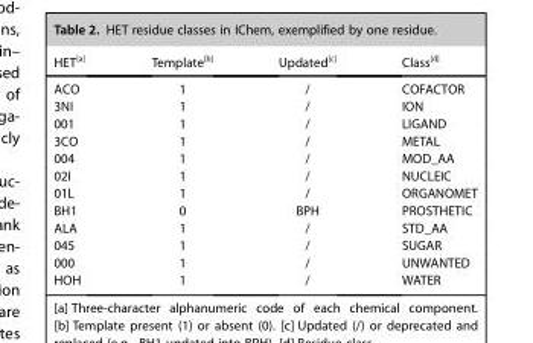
<table><thead><tr><td>HET<sup>[a]</sup></td><td>Template<sup>[b]</sup></td><td>Updated<sup>[c]</sup></td><td>Class<sup>[d]</sup></td></tr></thead><tbody><tr><td>ACO</td><td>1</td><td>/</td><td>COFACTOR</td></tr><tr><td>3NI</td><td>1</td><td>/</td><td>ION</td></tr><tr><td>001</td><td>1</td><td>/</td><td>LIGAND</td></tr><tr><td>3CO</td><td>1</td><td>/</td><td>METAL</td></tr><tr><td>004</td><td>1</td><td>/</td><td>MOD_AA</td></tr><tr><td>02I</td><td>1</td><td>/</td><td>NUCLEIC</td></tr><tr><td>01L</td><td>1</td><td>/</td><td>ORGANOMET</td></tr><tr><td>BH1</td><td>0</td><td>BPH</td><td>PROSTHETIC</td></tr><tr><td>ALA</td><td>1</td><td>/</td><td>STD_AA</td></tr><tr><td>045</td><td>1</td><td>/</td><td>SUGAR</td></tr><tr><td>000</td><td>1</td><td>/</td><td>UNWANTED</td></tr><tr><td>HOH</td><td>1</td><td>/</td><td>WATER</td></tr></tbody></table>